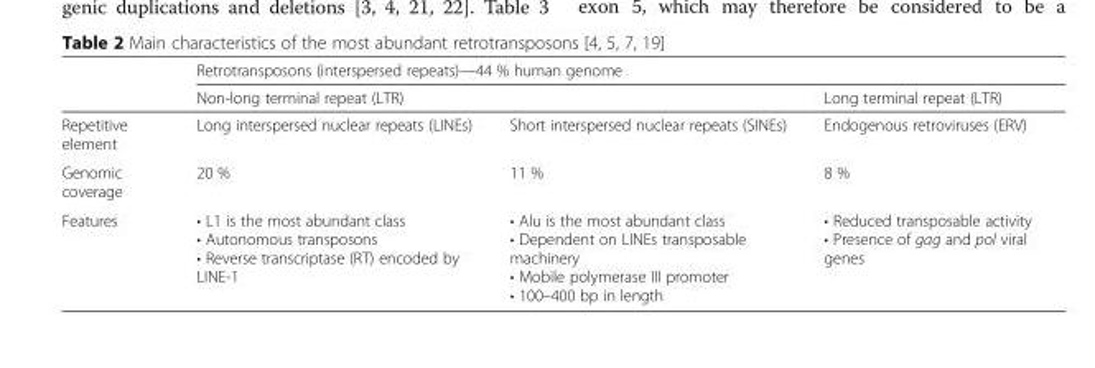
<table><thead><tr><td rowspan="3">Repetitive element</td><td colspan="3">Retrotransposons (interspersed repeats)—44 % human genome</td></tr><tr><td colspan="2">Non-long terminal repeat (LTR)</td><td rowspan="2">Long terminal repeat (LTR) Endogenous retroviruses (ERV)</td></tr><tr><td>Long interspersed nuclear repeats (LINEs)</td><td>Short interspersed nuclear repeats (SINEs)</td></tr></thead><tbody><tr><td>Genomic coverage</td><td>20 %</td><td>11 %</td><td>8 %</td></tr><tr><td>Features</td><td>• L1 is the most abundant class • Autonomous transposons • Reverse transcriptase (RT) encoded by LINE-1</td><td>• Alu is the most abundant class • Dependent on LINEs transposable machinery • Mobile polymerase III promoter • 100–400 bp in length</td><td>• Reduced transposable activity • Presence of gag and pol viral genes</td></tr></tbody></table>